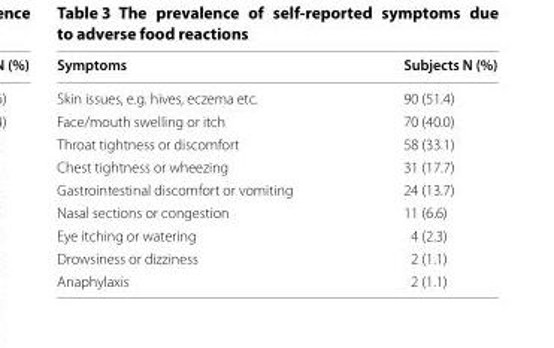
<table><thead><tr><td>Symptoms</td><td>Subjects N (%)</td></tr></thead><tbody><tr><td>Skin issues, e.g. hives, eczema etc.</td><td>90 (51.4)</td></tr><tr><td>Face/mouth swelling or itch</td><td>70 (40.0)</td></tr><tr><td>Throat tightness or discomfort</td><td>58 (33.1)</td></tr><tr><td>Chest tightness or wheezing</td><td>31 (17.7)</td></tr><tr><td>Gastrointestinal discomfort or vomiting</td><td>24 (13.7)</td></tr><tr><td>Nasal sections or congestion</td><td>11 (6.6)</td></tr><tr><td>Eye itching or watering</td><td>4 (2.3)</td></tr><tr><td>Drowsiness or dizziness</td><td>2 (1.1)</td></tr><tr><td>Anaphylaxis</td><td>2 (1.1)</td></tr></tbody></table>